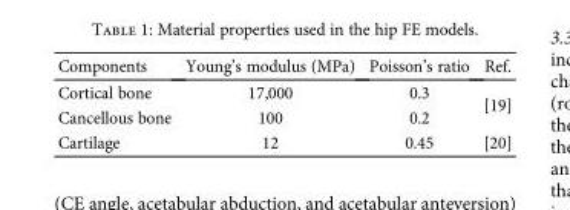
<table><thead><tr><td>Components</td><td>Young’s modulus (MPa)</td><td>Poisson’s ratio</td><td>Ref.</td></tr></thead><tbody><tr><td>Cortical bone</td><td>17,000</td><td>0.3</td><td rowspan="2">[19]</td></tr><tr><td>Cancellous bone</td><td>100</td><td>0.2</td></tr><tr><td>Cartilage</td><td>12</td><td>0.45</td><td>[20]</td></tr></tbody></table>